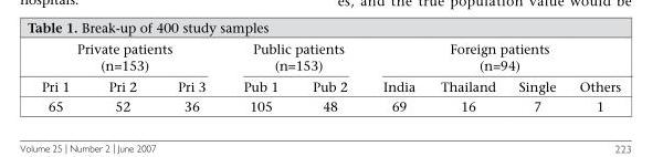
<table><thead><tr><td colspan="3">Private patients (n=153)</td><td colspan="2">Public patients (n=153)</td><td colspan="4">Foreign patients (n=94)</td></tr><tr><td>Pri 1</td><td>Pri 2</td><td>Pri 3</td><td>Pub 1</td><td>Pub 2</td><td>India</td><td>Thailand</td><td>Single</td><td>Others</td></tr></thead><tbody><tr><td>65</td><td>52</td><td>36</td><td>105</td><td>48</td><td>69</td><td>16</td><td>7</td><td>1</td></tr></tbody></table>